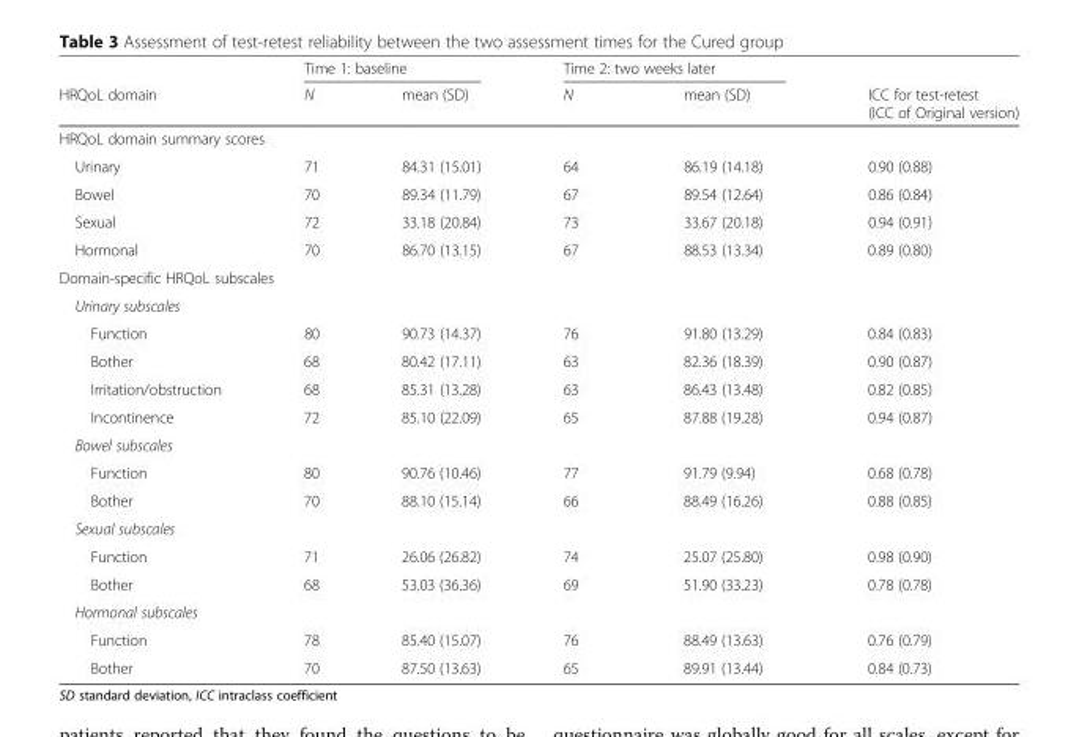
<table><thead><tr><td rowspan="2">HRQoL domain</td><td colspan="2">Time 1: baseline</td><td colspan="2">Time 2: two weeks later</td><td rowspan="2">ICC for test-retest (ICC of Original version)</td></tr><tr><td>N</td><td>mean (SD)</td><td>N</td><td>mean (SD)</td></tr></thead><tbody><tr><td colspan="6">HRQoL domain summary scores</td></tr><tr><td>Urinary</td><td>71</td><td>84.31 (15.01)</td><td>64</td><td>86.19 (14.18)</td><td>0.90 (0.88)</td></tr><tr><td>Bowel</td><td>70</td><td>89.34 (11.79)</td><td>67</td><td>89.54 (12.64)</td><td>0.86 (0.84)</td></tr><tr><td>Sexual</td><td>72</td><td>33.18 (20.84)</td><td>73</td><td>33.67 (20.18)</td><td>0.94 (0.91)</td></tr><tr><td>Hormonal</td><td>70</td><td>86.70 (13.15)</td><td>67</td><td>88.53 (13.34)</td><td>0.89 (0.80)</td></tr><tr><td colspan="6">Domain-specific HRQoL subscales</td></tr><tr><td colspan="6">Urinary subscales</td></tr><tr><td>Function</td><td>80</td><td>90.73 (14.37)</td><td>76</td><td>91.80 (13.29)</td><td>0.84 (0.83)</td></tr><tr><td>Bother</td><td>68</td><td>80.42 (17.11)</td><td>63</td><td>82.36 (18.39)</td><td>0.90 (0.87)</td></tr><tr><td>Irritation/obstruction</td><td>68</td><td>85.31 (13.28)</td><td>63</td><td>86.43 (13.48)</td><td>0.82 (0.85)</td></tr><tr><td>Incontinence</td><td>72</td><td>85.10 (22.09)</td><td>65</td><td>87.88 (19.28)</td><td>0.94 (0.87)</td></tr><tr><td colspan="6">Bowel subscales</td></tr><tr><td>Function</td><td>80</td><td>90.76 (10.46)</td><td>77</td><td>91.79 (9.94)</td><td>0.68 (0.78)</td></tr><tr><td>Bother</td><td>70</td><td>88.10 (15.14)</td><td>66</td><td>88.49 (16.26)</td><td>0.88 (0.85)</td></tr><tr><td colspan="6">Sexual subscales</td></tr><tr><td>Function</td><td>71</td><td>26.06 (26.82)</td><td>74</td><td>25.07 (25.80)</td><td>0.98 (0.90)</td></tr><tr><td>Bother</td><td>68</td><td>53.03 (36.36)</td><td>69</td><td>51.90 (33.23)</td><td>0.78 (0.78)</td></tr><tr><td colspan="6">Hormonal subscales</td></tr><tr><td>Function</td><td>78</td><td>85.40 (15.07)</td><td>76</td><td>88.49 (13.63)</td><td>0.76 (0.79)</td></tr><tr><td>Bother</td><td>70</td><td>87.50 (13.63)</td><td>65</td><td>89.91 (13.44)</td><td>0.84 (0.73)</td></tr></tbody></table>